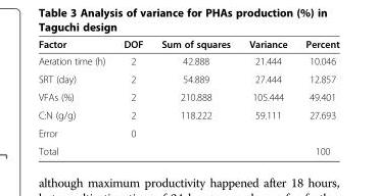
<table><thead><tr><td>Factor</td><td>DOF</td><td>Sum of squares</td><td>Variance</td><td>Percent</td></tr></thead><tbody><tr><td>Aeration time (h)</td><td>2</td><td>42.888</td><td>21.444</td><td>10.046</td></tr><tr><td>SRT (day)</td><td>2</td><td>54.889</td><td>27.444</td><td>12.857</td></tr><tr><td>VFAs (%)</td><td>2</td><td>210.888</td><td>105.444</td><td>49.401</td></tr><tr><td>C:N (g/g)</td><td>2</td><td>118.222</td><td>59.111</td><td>27.693</td></tr><tr><td>Error</td><td>0</td><td></td><td></td><td></td></tr><tr><td>Total</td><td></td><td></td><td></td><td>100</td></tr></tbody></table>